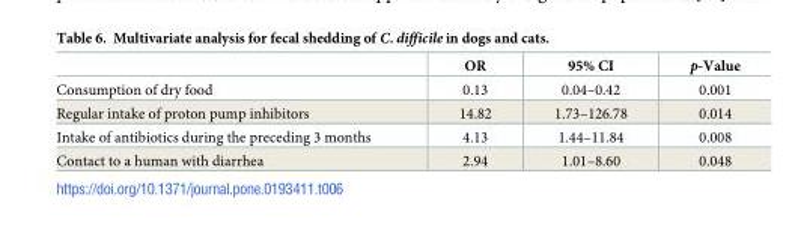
<table><thead><tr><td></td><td>OR</td><td>95% CI</td><td>p-Value</td></tr></thead><tbody><tr><td>Consumption of dry food</td><td>0.13</td><td>0.04–0.42</td><td>0.001</td></tr><tr><td>Regular intake of proton pump inhibitors</td><td>14.82</td><td>1.73–126.78</td><td>0.014</td></tr><tr><td>Intake of antibiotics during the preceding 3 months</td><td>4.13</td><td>1.44–11.84</td><td>0.008</td></tr><tr><td>Contact to a human with diarrhea</td><td>2.94</td><td>1.01–8.60</td><td>0.048</td></tr></tbody></table>